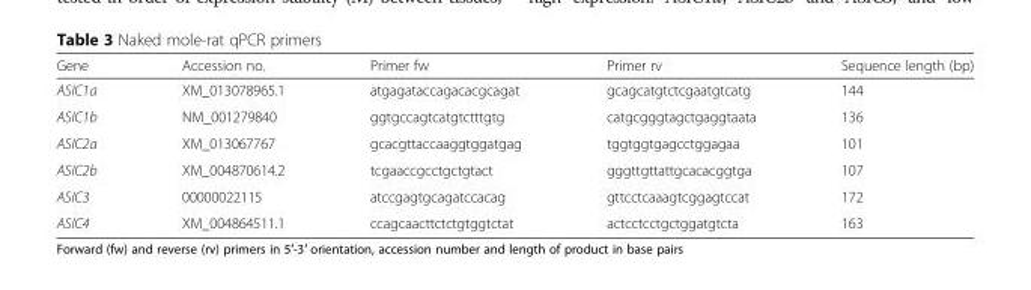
<table><thead><tr><td>Gene</td><td>Accession no.</td><td>Primer fw</td><td>Primer rv</td><td>Sequence length (bp)</td></tr></thead><tbody><tr><td>ASIC1a</td><td>XM_013078965.1</td><td>atgagataccagacacgcagat</td><td>gcagcatgtctcgaatgtcatg</td><td>144</td></tr><tr><td>ASIC1b</td><td>NM_001279840</td><td>ggtgccagtcatgtctttgtg</td><td>catgcgggtagctgaggtaata</td><td>136</td></tr><tr><td>ASIC2a</td><td>XM_013067767</td><td>gcacgttaccaaggtggatgag</td><td>tggtggtgagcctggagaa</td><td>101</td></tr><tr><td>ASIC2b</td><td>XM_004870614.2</td><td>tcgaaccgcctgctgtact</td><td>gggttgttattgcacacggtga</td><td>107</td></tr><tr><td>ASIC3</td><td>00000022115</td><td>atccgagtgcagatccacag</td><td>gttcctcaaagtcggagtccat</td><td>172</td></tr><tr><td>ASIC4</td><td>XM_004864511.1</td><td>ccagcaacttctctgtggtctat</td><td>actcctcctgctggatgtcta</td><td>163</td></tr></tbody></table>